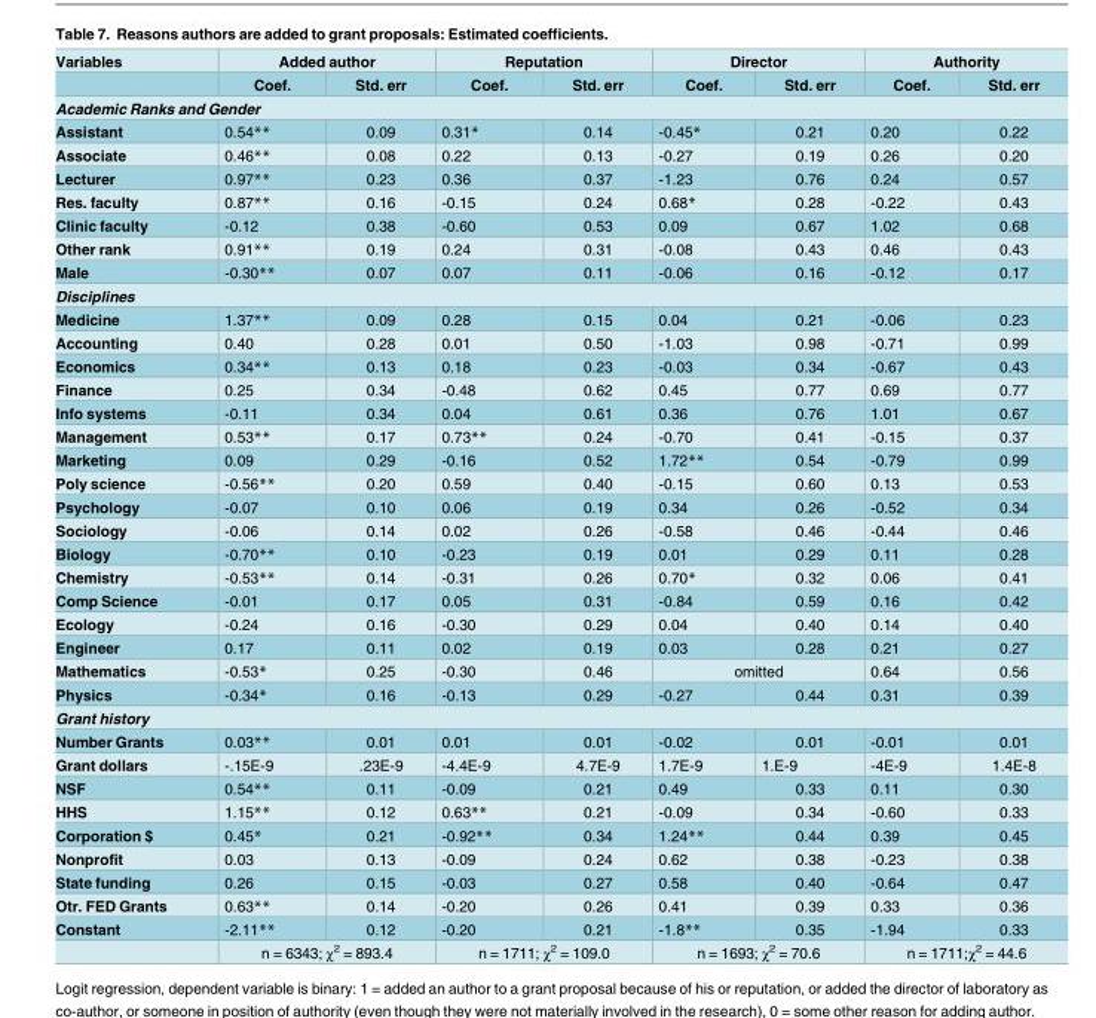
<table><thead><tr><td rowspan="2">Variables</td><td colspan="2">Added author</td><td colspan="2">Reputation</td><td colspan="2">Director</td><td colspan="2">Authority</td></tr><tr><td>Coef.</td><td>Std. err</td><td>Coef.</td><td>Std. err</td><td>Coef.</td><td>Std. err</td><td>Coef.</td><td>Std. err</td></tr></thead><tbody><tr><td colspan="9">Academic Ranks and Gender</td></tr><tr><td>Assistant</td><td>0.54**</td><td>0.09</td><td>0.31*</td><td>0.14</td><td>-0.45*</td><td>0.21</td><td>0.20</td><td>0.22</td></tr><tr><td>Associate</td><td>0.46**</td><td>0.08</td><td>0.22</td><td>0.13</td><td>-0.27</td><td>0.19</td><td>0.26</td><td>0.20</td></tr><tr><td>Lecturer</td><td>0.97**</td><td>0.23</td><td>0.36</td><td>0.37</td><td>-1.23</td><td>0.76</td><td>0.24</td><td>0.57</td></tr><tr><td>Res. faculty</td><td>0.87**</td><td>0.16</td><td>-0.15</td><td>0.24</td><td>0.68*</td><td>0.28</td><td>-0.22</td><td>0.43</td></tr><tr><td>Clinic faculty</td><td>-0.12</td><td>0.38</td><td>-0.60</td><td>0.53</td><td>0.09</td><td>0.67</td><td>1.02</td><td>0.68</td></tr><tr><td>Other rank</td><td>0.91**</td><td>0.19</td><td>0.24</td><td>0.31</td><td>-0.08</td><td>0.43</td><td>0.46</td><td>0.43</td></tr><tr><td>Male</td><td>-0.30**</td><td>0.07</td><td>0.07</td><td>0.11</td><td>-0.06</td><td>0.16</td><td>-0.12</td><td>0.17</td></tr><tr><td colspan="9">Disciplines</td></tr><tr><td>Medicine</td><td>1.37**</td><td>0.09</td><td>0.28</td><td>0.15</td><td>0.04</td><td>0.21</td><td>-0.06</td><td>0.23</td></tr><tr><td>Accounting</td><td>0.40</td><td>0.28</td><td>0.01</td><td>0.50</td><td>-1.03</td><td>0.98</td><td>-0.71</td><td>0.99</td></tr><tr><td>Economics</td><td>0.34**</td><td>0.13</td><td>0.18</td><td>0.23</td><td>-0.03</td><td>0.34</td><td>-0.67</td><td>0.43</td></tr><tr><td>Finance</td><td>0.25</td><td>0.34</td><td>-0.48</td><td>0.62</td><td>0.45</td><td>0.77</td><td>0.69</td><td>0.77</td></tr><tr><td>Info systems</td><td>-0.11</td><td>0.34</td><td>0.04</td><td>0.61</td><td>0.36</td><td>0.76</td><td>1.01</td><td>0.67</td></tr><tr><td>Management</td><td>0.53**</td><td>0.17</td><td>0.73**</td><td>0.24</td><td>-0.70</td><td>0.41</td><td>-0.15</td><td>0.37</td></tr><tr><td>Marketing</td><td>0.09</td><td>0.29</td><td>-0.16</td><td>0.52</td><td>1.72**</td><td>0.54</td><td>-0.79</td><td>0.99</td></tr><tr><td>Poly science</td><td>-0.56**</td><td>0.20</td><td>0.59</td><td>0.40</td><td>-0.15</td><td>0.60</td><td>0.13</td><td>0.53</td></tr><tr><td>Psychology</td><td>-0.07</td><td>0.10</td><td>0.06</td><td>0.19</td><td>0.34</td><td>0.26</td><td>-0.52</td><td>0.34</td></tr><tr><td>Sociology</td><td>-0.06</td><td>0.14</td><td>0.02</td><td>0.26</td><td>-0.58</td><td>0.46</td><td>-0.44</td><td>0.46</td></tr><tr><td>Biology</td><td>-0.70**</td><td>0.10</td><td>-0.23</td><td>0.19</td><td>0.01</td><td>0.29</td><td>0.11</td><td>0.28</td></tr><tr><td>Chemistry</td><td>-0.53**</td><td>0.14</td><td>-0.31</td><td>0.26</td><td>0.70*</td><td>0.32</td><td>0.06</td><td>0.41</td></tr><tr><td>Comp Science</td><td>-0.01</td><td>0.17</td><td>0.05</td><td>0.31</td><td>-0.84</td><td>0.59</td><td>0.16</td><td>0.42</td></tr><tr><td>Ecology</td><td>-0.24</td><td>0.16</td><td>-0.30</td><td>0.29</td><td>0.04</td><td>0.40</td><td>0.14</td><td>0.40</td></tr><tr><td>Engineer</td><td>0.17</td><td>0.11</td><td>0.02</td><td>0.19</td><td>0.03</td><td>0.28</td><td>0.21</td><td>0.27</td></tr><tr><td>Mathematics</td><td>-0.53*</td><td>0.25</td><td>-0.30</td><td>0.46</td><td colspan="2">omitted</td><td>0.64</td><td>0.56</td></tr><tr><td>Physics</td><td>-0.34*</td><td>0.16</td><td>-0.13</td><td>0.29</td><td>-0.27</td><td>0.44</td><td>0.31</td><td>0.39</td></tr><tr><td colspan="9">Grant history</td></tr><tr><td>Number Grants</td><td>0.03**</td><td>0.01</td><td>0.01</td><td>0.01</td><td>-0.02</td><td>0.01</td><td>-0.01</td><td>0.01</td></tr><tr><td>Grant dollars</td><td>-.15E-9</td><td>.23E-9</td><td>-4.4E-9</td><td>4.7E-9</td><td>1.7E-9</td><td>1.E-9</td><td>-4E-9</td><td>1.4E-8</td></tr><tr><td>NSF</td><td>0.54**</td><td>0.11</td><td>-0.09</td><td>0.21</td><td>0.49</td><td>0.33</td><td>0.11</td><td>0.30</td></tr><tr><td>HHS</td><td>1.15**</td><td>0.12</td><td>0.63**</td><td>0.21</td><td>-0.09</td><td>0.34</td><td>-0.60</td><td>0.33</td></tr><tr><td>Corporation $</td><td>0.45*</td><td>0.21</td><td>-0.92**</td><td>0.34</td><td>1.24**</td><td>0.44</td><td>0.39</td><td>0.45</td></tr><tr><td>Nonprofit</td><td>0.03</td><td>0.13</td><td>-0.09</td><td>0.24</td><td>0.62</td><td>0.38</td><td>-0.23</td><td>0.38</td></tr><tr><td>State funding</td><td>0.26</td><td>0.15</td><td>-0.03</td><td>0.27</td><td>0.58</td><td>0.40</td><td>-0.64</td><td>0.47</td></tr><tr><td>Otr. FED Grants</td><td>0.63**</td><td>0.14</td><td>-0.20</td><td>0.26</td><td>0.41</td><td>0.39</td><td>0.33</td><td>0.36</td></tr><tr><td rowspan="2">Constant</td><td>-2.11**</td><td>0.12</td><td>-0.20</td><td>0.21</td><td>-1.8**</td><td>0.35</td><td>-1.94</td><td>0.33</td></tr><tr><td colspan="2">n = 6343; χ<sup>2</sup> = 893.4</td><td colspan="2">n = 1711; χ<sup>2</sup> = 109.0</td><td colspan="2">n = 1693; χ<sup>2</sup> = 70.6</td><td colspan="2">n = 1711;χ<sup>2</sup> = 44.6</td></tr></tbody></table>